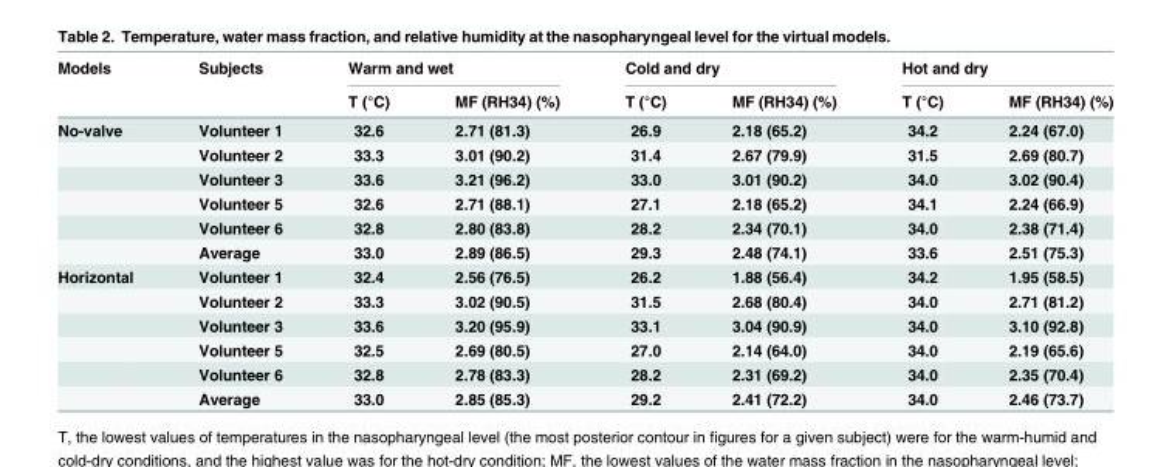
<table><thead><tr><td rowspan="2">Models</td><td rowspan="2">Subjects</td><td colspan="2">Warm and wet</td><td colspan="2">Cold and dry</td><td colspan="2">Hot and dry</td></tr><tr><td>T (°C)</td><td>MF (RH34) (%)</td><td>T (°C)</td><td>MF (RH34) (%)</td><td>T (°C)</td><td>MF (RH34) (%)</td></tr></thead><tbody><tr><td rowspan="6">No-valve</td><td>Volunteer 1</td><td>32.6</td><td>2.71 (81.3)</td><td>26.9</td><td>2.18 (65.2)</td><td>34.2</td><td>2.24 (67.0)</td></tr><tr><td>Volunteer 2</td><td>33.3</td><td>3.01 (90.2)</td><td>31.4</td><td>2.67 (79.9)</td><td>31.5</td><td>2.69 (80.7)</td></tr><tr><td>Volunteer 3</td><td>33.6</td><td>3.21 (96.2)</td><td>33.0</td><td>3.01 (90.2)</td><td>34.0</td><td>3.02 (90.4)</td></tr><tr><td>Volunteer 5</td><td>32.6</td><td>2.71 (88.1)</td><td>27.1</td><td>2.18 (65.2)</td><td>34.1</td><td>2.24 (66.9)</td></tr><tr><td>Volunteer 6</td><td>32.8</td><td>2.80 (83.8)</td><td>28.2</td><td>2.34 (70.1)</td><td>34.0</td><td>2.38 (71.4)</td></tr><tr><td>Average</td><td>33.0</td><td>2.89 (86.5)</td><td>29.3</td><td>2.48 (74.1)</td><td>33.6</td><td>2.51 (75.3)</td></tr><tr><td rowspan="6">Horizontal</td><td>Volunteer 1</td><td>32.4</td><td>2.56 (76.5)</td><td>26.2</td><td>1.88 (56.4)</td><td>34.2</td><td>1.95 (58.5)</td></tr><tr><td>Volunteer 2</td><td>33.3</td><td>3.02 (90.5)</td><td>31.5</td><td>2.68 (80.4)</td><td>34.0</td><td>2.71 (81.2)</td></tr><tr><td>Volunteer 3</td><td>33.6</td><td>3.20 (95.9)</td><td>33.1</td><td>3.04 (90.9)</td><td>34.0</td><td>3.10 (92.8)</td></tr><tr><td>Volunteer 5</td><td>32.5</td><td>2.69 (80.5)</td><td>27.0</td><td>2.14 (64.0)</td><td>34.0</td><td>2.19 (65.6)</td></tr><tr><td>Volunteer 6</td><td>32.8</td><td>2.78 (83.3)</td><td>28.2</td><td>2.31 (69.2)</td><td>34.0</td><td>2.35 (70.4)</td></tr><tr><td>Average</td><td>33.0</td><td>2.85 (85.3)</td><td>29.2</td><td>2.41 (72.2)</td><td>34.0</td><td>2.46 (73.7)</td></tr></tbody></table>